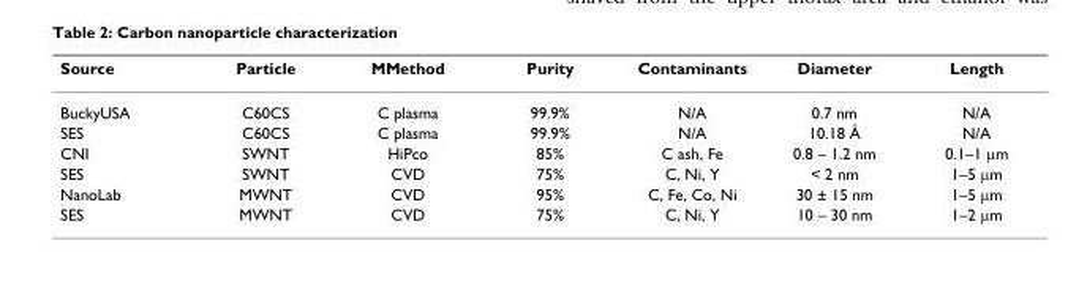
<table><thead><tr><td>Source</td><td>Particle</td><td>MMethod</td><td>Purity</td><td>Contaminants</td><td>Diameter</td><td>Length</td></tr></thead><tbody><tr><td>BuckyUSA</td><td>C60CS</td><td>C plasma</td><td>99.9%</td><td>N/A</td><td>0.7 nm</td><td>N/A</td></tr><tr><td>SES</td><td>C60CS</td><td>C plasma</td><td>99.9%</td><td>N/A</td><td>10.18 Å</td><td>N/A</td></tr><tr><td>CNI</td><td>SWNT</td><td>HiPco</td><td>85%</td><td>C ash, Fe</td><td>0.8 – 1.2 nm</td><td>0.1–1 µm</td></tr><tr><td>SES</td><td>SWNT</td><td>CVD</td><td>75%</td><td>C, Ni, Y</td><td>&lt; 2 nm</td><td>1–5 µm</td></tr><tr><td>NanoLab</td><td>MWNT</td><td>CVD</td><td>95%</td><td>C, Fe, Co, Ni</td><td>30 ± 15 nm</td><td>1–5 µm</td></tr><tr><td>SES</td><td>MWNT</td><td>CVD</td><td>75%</td><td>C, Ni, Y</td><td>10 – 30 nm</td><td>1–2 µm</td></tr></tbody></table>